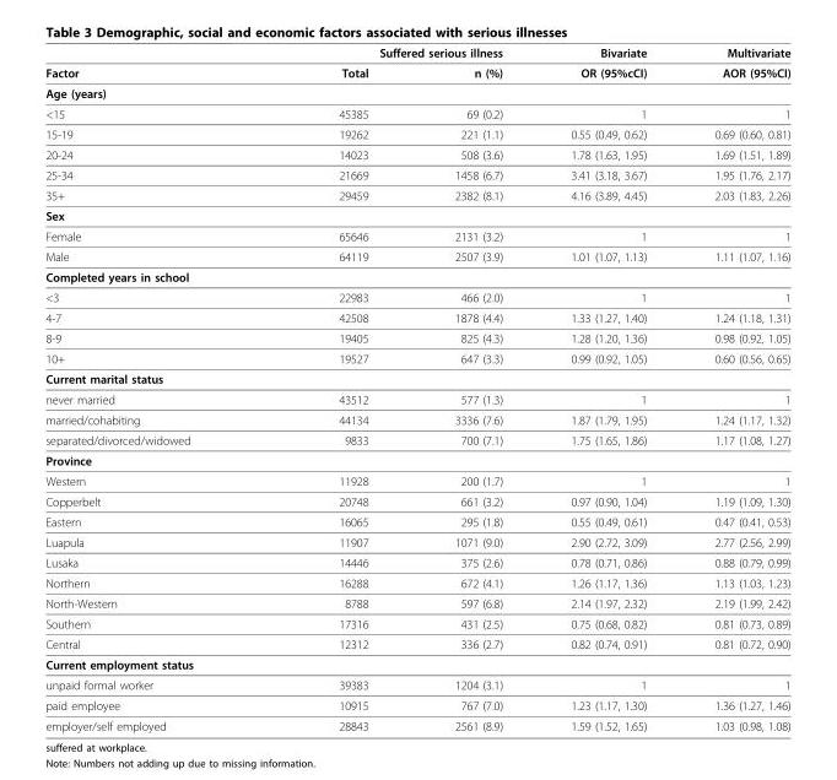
<table><thead><tr><td rowspan="2">Factor</td><td colspan="2">Suffered serious illness</td><td rowspan="2">Bivariate OR (95%cCI)</td><td rowspan="2">Multivariate AOR (95%CI)</td></tr><tr><td>Total</td><td>n (%)</td></tr></thead><tbody><tr><td colspan="5">Age (years)</td></tr><tr><td>&lt;15</td><td>45385</td><td>69 (0.2)</td><td>1</td><td>1</td></tr><tr><td>15-19</td><td>19262</td><td>221 (1.1)</td><td>0.55 (0.49, 0.62)</td><td>0.69 (0.60, 0.81)</td></tr><tr><td>20-24</td><td>14023</td><td>508 (3.6)</td><td>1.78 (1.63, 1.95)</td><td>1.69 (1.51, 1.89)</td></tr><tr><td>25-34</td><td>21669</td><td>1458 (6.7)</td><td>3.41 (3.18, 3.67)</td><td>1.95 (1.76, 2.17)</td></tr><tr><td>35+</td><td>29459</td><td>2382 (8.1)</td><td>4.16 (3.89, 4.45)</td><td>2.03 (1.83, 2.26)</td></tr><tr><td colspan="5">Sex</td></tr><tr><td>Female</td><td>65646</td><td>2131 (3.2)</td><td>1</td><td>1</td></tr><tr><td>Male</td><td>64119</td><td>2507 (3.9)</td><td>1.01 (1.07, 1.13)</td><td>1.11 (1.07, 1.16)</td></tr><tr><td colspan="5">Completed years in school</td></tr><tr><td>&lt;3</td><td>22983</td><td>466 (2.0)</td><td>1</td><td>1</td></tr><tr><td>4-7</td><td>42508</td><td>1878 (4.4)</td><td>1.33 (1.27, 1.40)</td><td>1.24 (1.18, 1.31)</td></tr><tr><td>8-9</td><td>19405</td><td>825 (4.3)</td><td>1.28 (1.20, 1.36)</td><td>0.98 (0.92, 1.05)</td></tr><tr><td>10+</td><td>19527</td><td>647 (3.3)</td><td>0.99 (0.92, 1.05)</td><td>0.60 (0.56, 0.65)</td></tr><tr><td colspan="5">Current marital status</td></tr><tr><td>never married</td><td>43512</td><td>577 (1.3)</td><td>1</td><td>1</td></tr><tr><td>married/cohabiting</td><td>44134</td><td>3336 (7.6)</td><td>1.87 (1.79, 1.95)</td><td>1.24 (1.17, 1.32)</td></tr><tr><td>separated/divorced/widowed</td><td>9833</td><td>700 (7.1)</td><td>1.75 (1.65, 1.86)</td><td>1.17 (1.08, 1.27)</td></tr><tr><td colspan="5">Province</td></tr><tr><td>Western</td><td>11928</td><td>200 (1.7)</td><td>1</td><td>1</td></tr><tr><td>Copperbelt</td><td>20748</td><td>661 (3.2)</td><td>0.97 (0.90, 1.04)</td><td>1.19 (1.09, 1.30)</td></tr><tr><td>Eastern</td><td>16065</td><td>295 (1.8)</td><td>0.55 (0.49, 0.61)</td><td>0.47 (0.41, 0.53)</td></tr><tr><td>Luapula</td><td>11907</td><td>1071 (9.0)</td><td>2.90 (2.72, 3.09)</td><td>2.77 (2.56, 2.99)</td></tr><tr><td>Lusaka</td><td>14446</td><td>375 (2.6)</td><td>0.78 (0.71, 0.86)</td><td>0.88 (0.79, 0.99)</td></tr><tr><td>Northern</td><td>16288</td><td>672 (4.1)</td><td>1.26 (1.17, 1.36)</td><td>1.13 (1.03, 1.23)</td></tr><tr><td>North-Western</td><td>8788</td><td>597 (6.8)</td><td>2.14 (1.97, 2.32)</td><td>2.19 (1.99, 2.42)</td></tr><tr><td>Southern</td><td>17316</td><td>431 (2.5)</td><td>0.75 (0.68, 0.82)</td><td>0.81 (0.73, 0.89)</td></tr><tr><td>Central</td><td>12312</td><td>336 (2.7)</td><td>0.82 (0.74, 0.91)</td><td>0.81 (0.72, 0.90)</td></tr><tr><td colspan="5">Current employment status</td></tr><tr><td>unpaid formal worker</td><td>39383</td><td>1204 (3.1)</td><td>1</td><td>1</td></tr><tr><td>paid employee</td><td>10915</td><td>767 (7.0)</td><td>1.23 (1.17, 1.30)</td><td>1.36 (1.27, 1.46)</td></tr><tr><td>employer/self employed</td><td>28843</td><td>2561 (8.9)</td><td>1.59 (1.52, 1.65)</td><td>1.03 (0.98, 1.08)</td></tr></tbody></table>